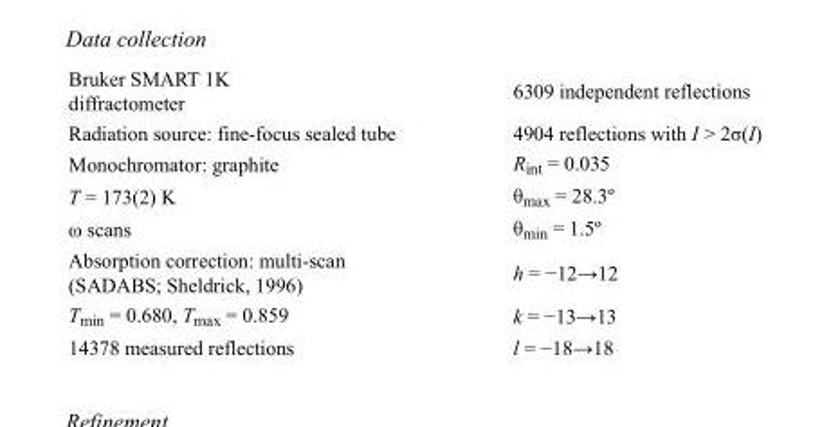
<table><tbody><tr><td>Bruker SMART 1K diffractometer</td><td>6309 independent reflections</td></tr><tr><td>Radiation source: fine-focus sealed tube</td><td>4904 reflections with I &gt; 2σ(I)</td></tr><tr><td>Monochromator: graphite</td><td>R<sub>int</sub> = 0.035</td></tr><tr><td>T = 173(2) K</td><td>θ<sub>max</sub> = 28.3º</td></tr><tr><td>ω scans</td><td>θ<sub>min</sub> = 1.5º</td></tr><tr><td>Absorption correction: multi-scan (SADABS; Sheldrick, 1996)</td><td>h = −12→12</td></tr><tr><td>T<sub>min</sub> = 0.680, T<sub>max</sub> = 0.859</td><td>k = −13→13</td></tr><tr><td>14378 measured reflections</td><td>l = −18→18</td></tr></tbody></table>